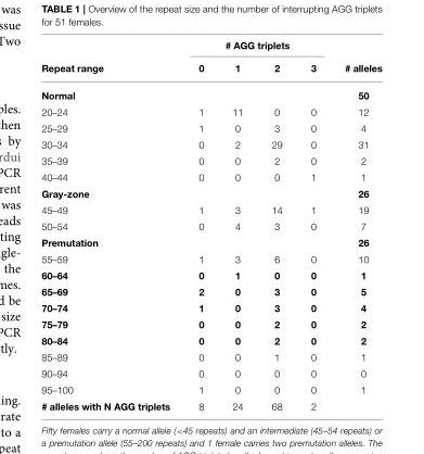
<table><thead><tr><td rowspan="2">Repeat range</td><td colspan="4"># AGG triplets</td><td rowspan="2"># alleles</td></tr><tr><td>0</td><td>1</td><td>2</td><td>3</td></tr></thead><tbody><tr><td>Normal</td><td></td><td></td><td></td><td></td><td>50</td></tr><tr><td>20–24</td><td>1</td><td>11</td><td>0</td><td>0</td><td>12</td></tr><tr><td>25–29</td><td>1</td><td>0</td><td>3</td><td>0</td><td>4</td></tr><tr><td>30–34</td><td>0</td><td>2</td><td>29</td><td>0</td><td>31</td></tr><tr><td>35–39</td><td>0</td><td>0</td><td>2</td><td>0</td><td>2</td></tr><tr><td>40–44</td><td>0</td><td>0</td><td>0</td><td>1</td><td>1</td></tr><tr><td>Gray-zone</td><td></td><td></td><td></td><td></td><td>26</td></tr><tr><td>45–49</td><td>1</td><td>3</td><td>14</td><td>1</td><td>19</td></tr><tr><td>50–54</td><td>0</td><td>4</td><td>3</td><td>0</td><td>7</td></tr><tr><td>Premutation</td><td></td><td></td><td></td><td></td><td>26</td></tr><tr><td>55–59</td><td>1</td><td>3</td><td>6</td><td>0</td><td>10</td></tr><tr><td>60–64</td><td>0</td><td>1</td><td>0</td><td>0</td><td>1</td></tr><tr><td>65–69</td><td>2</td><td>0</td><td>3</td><td>0</td><td>5</td></tr><tr><td>70–74</td><td>1</td><td>0</td><td>3</td><td>0</td><td>4</td></tr><tr><td>75–79</td><td>0</td><td>0</td><td>2</td><td>0</td><td>2</td></tr><tr><td>80–84</td><td>0</td><td>0</td><td>2</td><td>0</td><td>2</td></tr><tr><td>85–89</td><td>0</td><td>0</td><td>1</td><td>0</td><td>1</td></tr><tr><td>90–94</td><td>0</td><td>0</td><td>0</td><td>0</td><td>0</td></tr><tr><td>95–100</td><td>1</td><td>0</td><td>0</td><td>0</td><td>1</td></tr><tr><td># alleles with N AGG triplets</td><td>8</td><td>24</td><td>68</td><td>2</td><td></td></tr></tbody></table>